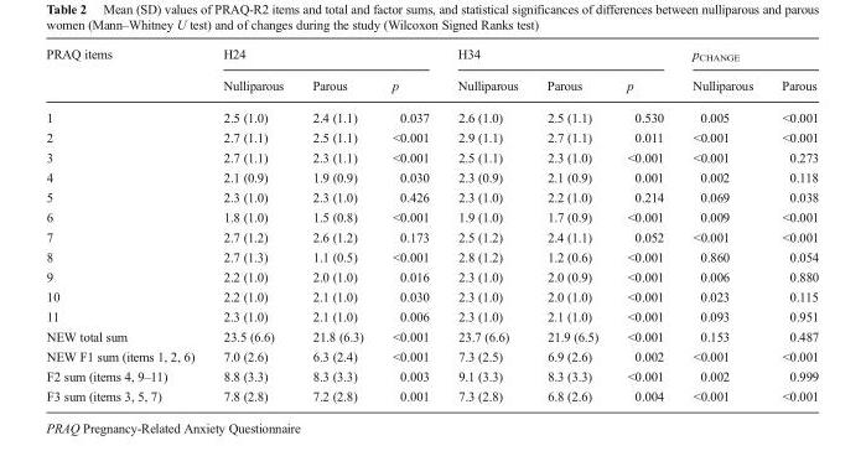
<table><thead><tr><td rowspan="2">PRAQ items</td><td colspan="3">H24</td><td colspan="3">H34</td><td colspan="2">p<sub>CHANGE</sub></td></tr><tr><td>Nulliparous</td><td>Parous</td><td>p</td><td>Nulliparous</td><td>Parous</td><td>p</td><td>Nulliparous</td><td>Parous</td></tr></thead><tbody><tr><td>1</td><td>2.5 (1.0)</td><td>2.4 (1.1)</td><td>0.037</td><td>2.6 (1.0)</td><td>2.5 (1.1)</td><td>0.530</td><td>0.005</td><td>&lt;0.001</td></tr><tr><td>2</td><td>2.7 (1.1)</td><td>2.5 (1.1)</td><td>&lt;0.001</td><td>2.9 (1.1)</td><td>2.7 (1.1)</td><td>0.011</td><td>&lt;0.001</td><td>&lt;0.001</td></tr><tr><td>3</td><td>2.7 (1.1)</td><td>2.3 (1.1)</td><td>&lt;0.001</td><td>2.5 (1.1)</td><td>2.3 (1.0)</td><td>&lt;0.001</td><td>&lt;0.001</td><td>0.273</td></tr><tr><td>4</td><td>2.1 (0.9)</td><td>1.9 (0.9)</td><td>0.030</td><td>2.3 (0.9)</td><td>2.1 (0.9)</td><td>0.001</td><td>0.002</td><td>0.118</td></tr><tr><td>5</td><td>2.3 (1.0)</td><td>2.3 (1.0)</td><td>0.426</td><td>2.3 (1.0)</td><td>2.2 (1.0)</td><td>0.214</td><td>0.069</td><td>0.038</td></tr><tr><td>6</td><td>1.8 (1.0)</td><td>1.5 (0.8)</td><td>&lt;0.001</td><td>1.9 (1.0)</td><td>1.7 (0.9)</td><td>&lt;0.001</td><td>0.009</td><td>&lt;0.001</td></tr><tr><td>7</td><td>2.7 (1.2)</td><td>2.6 (1.2)</td><td>0.173</td><td>2.5 (1.2)</td><td>2.4 (1.1)</td><td>0.052</td><td>&lt;0.001</td><td>&lt;0.001</td></tr><tr><td>8</td><td>2.7 (1.3)</td><td>1.1 (0.5)</td><td>&lt;0.001</td><td>2.8 (1.2)</td><td>1.2 (0.6)</td><td>&lt;0.001</td><td>0.860</td><td>0.054</td></tr><tr><td>9</td><td>2.2 (1.0)</td><td>2.0 (1.0)</td><td>0.016</td><td>2.3 (1.0)</td><td>2.0 (0.9)</td><td>&lt;0.001</td><td>0.006</td><td>0.880</td></tr><tr><td>10</td><td>2.2 (1.0)</td><td>2.1 (1.0)</td><td>0.030</td><td>2.3 (1.0)</td><td>2.0 (1.0)</td><td>&lt;0.001</td><td>0.023</td><td>0.115</td></tr><tr><td>11</td><td>2.3 (1.0)</td><td>2.1 (1.0)</td><td>0.006</td><td>2.3 (1.0)</td><td>2.1 (1.0)</td><td>&lt;0.001</td><td>0.093</td><td>0.951</td></tr><tr><td>NEW total sum</td><td>23.5 (6.6)</td><td>21.8 (6.3)</td><td>&lt;0.001</td><td>23.7 (6.6)</td><td>21.9 (6.5)</td><td>&lt;0.001</td><td>0.153</td><td>0.487</td></tr><tr><td>NEW F1 sum (items 1, 2, 6)</td><td>7.0 (2.6)</td><td>6.3 (2.4)</td><td>&lt;0.001</td><td>7.3 (2.5)</td><td>6.9 (2.6)</td><td>0.002</td><td>&lt;0.001</td><td>&lt;0.001</td></tr><tr><td>F2 sum (items 4, 9–11)</td><td>8.8 (3.3)</td><td>8.3 (3.3)</td><td>0.003</td><td>9.1 (3.3)</td><td>8.3 (3.3)</td><td>&lt;0.001</td><td>0.002</td><td>0.999</td></tr><tr><td>F3 sum (items 3, 5, 7)</td><td>7.8 (2.8)</td><td>7.2 (2.8)</td><td>0.001</td><td>7.3 (2.8)</td><td>6.8 (2.6)</td><td>0.004</td><td>&lt;0.001</td><td>&lt;0.001</td></tr></tbody></table>